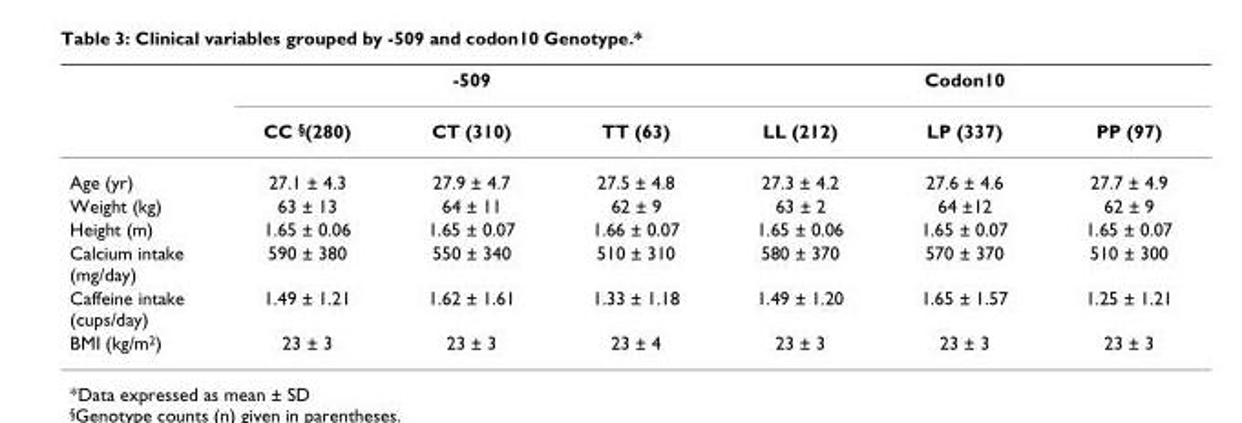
<table><thead><tr><td rowspan="2"></td><td colspan="3">-509</td><td colspan="3">Codon10</td></tr><tr><td>CC <sup>§</sup>(280)</td><td>CT (310)</td><td>TT (63)</td><td>LL (212)</td><td>LP (337)</td><td>PP (97)</td></tr></thead><tbody><tr><td>Age (yr)</td><td>27.1 ± 4.3</td><td>27.9 ± 4.7</td><td>27.5 ± 4.8</td><td>27.3 ± 4.2</td><td>27.6 ± 4.6</td><td>27.7 ± 4.9</td></tr><tr><td>Weight (kg)</td><td>63 ± 13</td><td>64 ± 11</td><td>62 ± 9</td><td>63 ± 2</td><td>64 ±12</td><td>62 ± 9</td></tr><tr><td>Height (m)</td><td>1.65 ± 0.06</td><td>1.65 ± 0.07</td><td>1.66 ± 0.07</td><td>1.65 ± 0.06</td><td>1.65 ± 0.07</td><td>1.65 ± 0.07</td></tr><tr><td>Calcium intake (mg/day)</td><td>590 ± 380</td><td>550 ± 340</td><td>510 ± 310</td><td>580 ± 370</td><td>570 ± 370</td><td>510 ± 300</td></tr><tr><td>Caffeine intake (cups/day)</td><td>1.49 ± 1.21</td><td>1.62 ± 1.61</td><td>1.33 ± 1.18</td><td>1.49 ± 1.20</td><td>1.65 ± 1.57</td><td>1.25 ± 1.21</td></tr><tr><td>BMI (kg/m<sup>2</sup>)</td><td>23 ± 3</td><td>23 ± 3</td><td>23 ± 4</td><td>23 ± 3</td><td>23 ± 3</td><td>23 ± 3</td></tr></tbody></table>